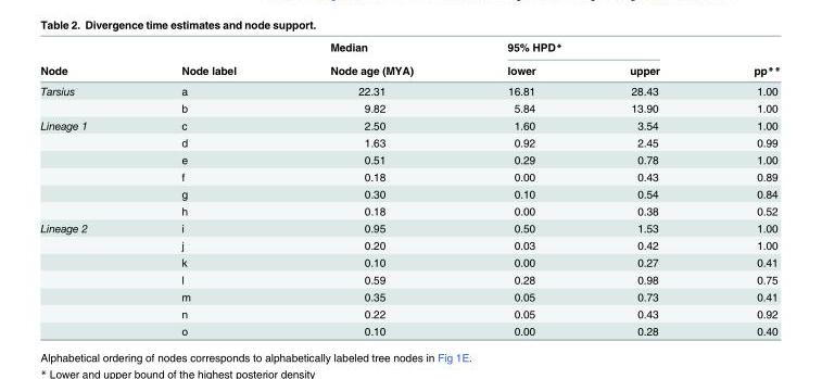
<table><thead><tr><td rowspan="2">Node</td><td rowspan="2">Node label</td><td rowspan="2">Median Node age (MYA)</td><td colspan="2">95% HPD*</td><td rowspan="2">pp**</td></tr><tr><td>lower</td><td>upper</td></tr></thead><tbody><tr><td rowspan="2">Tarsius</td><td>a</td><td>22.31</td><td>16.81</td><td>28.43</td><td>1.00</td></tr><tr><td>b</td><td>9.82</td><td>5.84</td><td>13.90</td><td>1.00</td></tr><tr><td rowspan="6">Lineage 1</td><td>c</td><td>2.50</td><td>1.60</td><td>3.54</td><td>1.00</td></tr><tr><td>d</td><td>1.63</td><td>0.92</td><td>2.45</td><td>0.99</td></tr><tr><td>e</td><td>0.51</td><td>0.29</td><td>0.78</td><td>1.00</td></tr><tr><td>f</td><td>0.18</td><td>0.00</td><td>0.43</td><td>0.89</td></tr><tr><td>g</td><td>0.30</td><td>0.10</td><td>0.54</td><td>0.84</td></tr><tr><td>h</td><td>0.18</td><td>0.00</td><td>0.38</td><td>0.52</td></tr><tr><td rowspan="7">Lineage 2</td><td>i</td><td>0.95</td><td>0.50</td><td>1.53</td><td>1.00</td></tr><tr><td>j</td><td>0.20</td><td>0.03</td><td>0.42</td><td>1.00</td></tr><tr><td>k</td><td>0.10</td><td>0.00</td><td>0.27</td><td>0.41</td></tr><tr><td>l</td><td>0.59</td><td>0.28</td><td>0.98</td><td>0.75</td></tr><tr><td>m</td><td>0.35</td><td>0.05</td><td>0.73</td><td>0.41</td></tr><tr><td>n</td><td>0.22</td><td>0.05</td><td>0.43</td><td>0.92</td></tr><tr><td>o</td><td>0.10</td><td>0.00</td><td>0.28</td><td>0.40</td></tr></tbody></table>